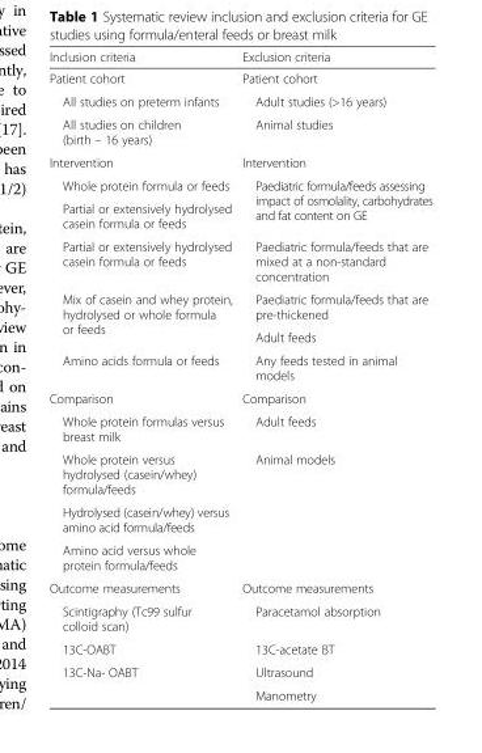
<table><thead><tr><td>Inclusion criteria</td><td>Exclusion criteria</td></tr></thead><tbody><tr><td>Patient cohort</td><td>Patient cohort</td></tr><tr><td>All studies on preterm infants</td><td>Adult studies (&gt;16 years)</td></tr><tr><td>All studies on children (birth – 16 years)</td><td>Animal studies</td></tr><tr><td>Intervention</td><td>Intervention</td></tr><tr><td>Whole protein formula or feeds</td><td rowspan="2">Paediatric formula/feeds assessing impact of osmolality, carbohydrates and fat content on GE</td></tr><tr><td>Partial or extensively hydrolysed casein formula or feeds</td></tr><tr><td>Partial or extensively hydrolysed casein formula or feeds</td><td>Paediatric formula/feeds that are mixed at a non-standard concentration</td></tr><tr><td rowspan="2">Mix of casein and whey protein, hydrolysed or whole formula or feeds</td><td>Paediatric formula/feeds that are pre-thickened</td></tr><tr><td>Adult feeds</td></tr><tr><td>Amino acids formula or feeds</td><td>Any feeds tested in animal models</td></tr><tr><td>Comparison</td><td>Comparison</td></tr><tr><td>Whole protein formulas versus breast milk</td><td>Adult feeds</td></tr><tr><td>Whole protein versus hydrolysed (casein/whey) formula/feeds</td><td rowspan="3">Animal models</td></tr><tr><td>Hydrolysed (casein/whey) versus amino acid formula/feeds</td></tr><tr><td>Amino acid versus whole protein formula/feeds</td></tr><tr><td>Outcome measurements</td><td>Outcome measurements</td></tr><tr><td>Scintigraphy (Tc99 sulfur colloid scan)</td><td>Paracetamol absorption</td></tr><tr><td>13C-OABT</td><td>13C-acetate BT</td></tr><tr><td rowspan="2">13C-Na- OABT</td><td>Ultrasound</td></tr><tr><td>Manometry</td></tr></tbody></table>